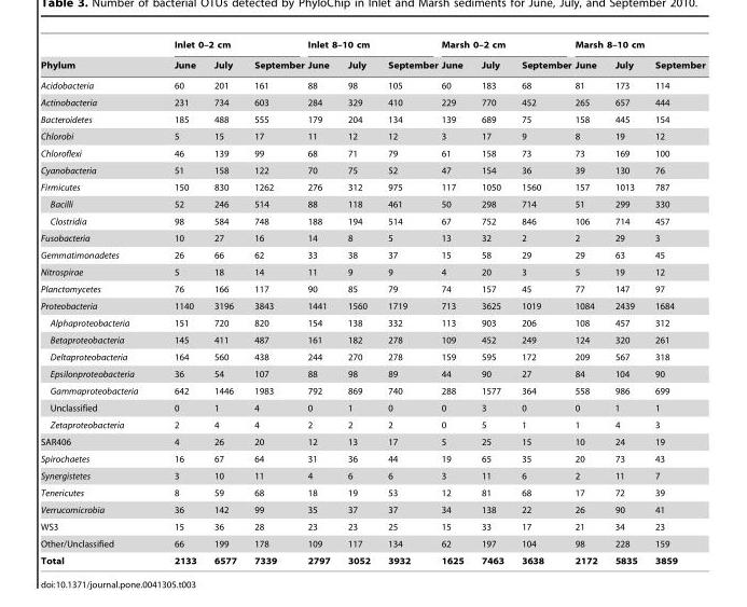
<table><thead><tr><td rowspan="2">Phylum</td><td colspan="3">Inlet 0–2 cm</td><td colspan="3">Inlet 8–10 cm</td><td colspan="3">Marsh 0–2 cm</td><td colspan="3">Marsh 8–10 cm</td></tr><tr><td>June</td><td>July</td><td>September</td><td>June</td><td>July</td><td>September</td><td>June</td><td>July</td><td>September</td><td>June</td><td>July</td><td>September</td></tr></thead><tbody><tr><td>Acidobacteria</td><td>60</td><td>201</td><td>161</td><td>88</td><td>98</td><td>105</td><td>60</td><td>183</td><td>68</td><td>81</td><td>173</td><td>114</td></tr><tr><td>Actinobacteria</td><td>231</td><td>734</td><td>603</td><td>284</td><td>329</td><td>410</td><td>229</td><td>770</td><td>452</td><td>265</td><td>657</td><td>444</td></tr><tr><td>Bacteroidetes</td><td>185</td><td>488</td><td>555</td><td>179</td><td>204</td><td>134</td><td>139</td><td>689</td><td>75</td><td>158</td><td>445</td><td>154</td></tr><tr><td>Chlorobi</td><td>5</td><td>15</td><td>17</td><td>11</td><td>12</td><td>12</td><td>3</td><td>17</td><td>9</td><td>8</td><td>19</td><td>12</td></tr><tr><td>Chloroflexi</td><td>46</td><td>139</td><td>99</td><td>68</td><td>71</td><td>79</td><td>61</td><td>158</td><td>73</td><td>73</td><td>169</td><td>100</td></tr><tr><td>Cyanobacteria</td><td>51</td><td>158</td><td>122</td><td>70</td><td>75</td><td>52</td><td>47</td><td>154</td><td>36</td><td>39</td><td>130</td><td>76</td></tr><tr><td>Firmicutes</td><td>150</td><td>830</td><td>1262</td><td>276</td><td>312</td><td>975</td><td>117</td><td>1050</td><td>1560</td><td>157</td><td>1013</td><td>787</td></tr><tr><td>Bacilli</td><td>52</td><td>246</td><td>514</td><td>88</td><td>118</td><td>461</td><td>50</td><td>298</td><td>714</td><td>51</td><td>299</td><td>330</td></tr><tr><td>Clostridia</td><td>98</td><td>584</td><td>748</td><td>188</td><td>194</td><td>514</td><td>67</td><td>752</td><td>846</td><td>106</td><td>714</td><td>457</td></tr><tr><td>Fusobacteria</td><td>10</td><td>27</td><td>16</td><td>14</td><td>8</td><td>5</td><td>13</td><td>32</td><td>2</td><td>2</td><td>29</td><td>3</td></tr><tr><td>Gemmatimonadetes</td><td>26</td><td>66</td><td>62</td><td>33</td><td>38</td><td>37</td><td>15</td><td>58</td><td>29</td><td>29</td><td>63</td><td>45</td></tr><tr><td>Nitrospirae</td><td>5</td><td>18</td><td>14</td><td>11</td><td>9</td><td>9</td><td>4</td><td>20</td><td>3</td><td>5</td><td>19</td><td>12</td></tr><tr><td>Planctomycetes</td><td>76</td><td>166</td><td>117</td><td>90</td><td>85</td><td>79</td><td>74</td><td>157</td><td>45</td><td>77</td><td>147</td><td>97</td></tr><tr><td>Proteobacteria</td><td>1140</td><td>3196</td><td>3843</td><td>1441</td><td>1560</td><td>1719</td><td>713</td><td>3625</td><td>1019</td><td>1084</td><td>2439</td><td>1684</td></tr><tr><td>Alphaproteobacteria</td><td>151</td><td>720</td><td>820</td><td>154</td><td>138</td><td>332</td><td>113</td><td>903</td><td>206</td><td>108</td><td>457</td><td>312</td></tr><tr><td>Betaproteobacteria</td><td>145</td><td>411</td><td>487</td><td>161</td><td>182</td><td>278</td><td>109</td><td>452</td><td>249</td><td>124</td><td>320</td><td>261</td></tr><tr><td>Deltaproteobacteria</td><td>164</td><td>560</td><td>438</td><td>244</td><td>270</td><td>278</td><td>159</td><td>595</td><td>172</td><td>209</td><td>567</td><td>318</td></tr><tr><td>Epsilonproteobacteria</td><td>36</td><td>54</td><td>107</td><td>88</td><td>98</td><td>89</td><td>44</td><td>90</td><td>27</td><td>84</td><td>104</td><td>90</td></tr><tr><td>Gammaproteobacteria</td><td>642</td><td>1446</td><td>1983</td><td>792</td><td>869</td><td>740</td><td>288</td><td>1577</td><td>364</td><td>558</td><td>986</td><td>699</td></tr><tr><td>Unclassified</td><td>0</td><td>1</td><td>4</td><td>0</td><td>1</td><td>0</td><td>0</td><td>3</td><td>0</td><td>0</td><td>1</td><td>1</td></tr><tr><td>Zetaproteobacteria</td><td>2</td><td>4</td><td>4</td><td>2</td><td>2</td><td>2</td><td>0</td><td>5</td><td>1</td><td>1</td><td>4</td><td>3</td></tr><tr><td>SAR406</td><td>4</td><td>26</td><td>20</td><td>12</td><td>13</td><td>17</td><td>5</td><td>25</td><td>15</td><td>10</td><td>24</td><td>19</td></tr><tr><td>Spirochaetes</td><td>16</td><td>67</td><td>64</td><td>31</td><td>36</td><td>44</td><td>19</td><td>65</td><td>35</td><td>20</td><td>73</td><td>43</td></tr><tr><td>Synergistetes</td><td>3</td><td>10</td><td>11</td><td>4</td><td>6</td><td>6</td><td>3</td><td>11</td><td>6</td><td>2</td><td>11</td><td>7</td></tr><tr><td>Tenericutes</td><td>8</td><td>59</td><td>68</td><td>18</td><td>19</td><td>53</td><td>12</td><td>81</td><td>68</td><td>17</td><td>72</td><td>39</td></tr><tr><td>Verrucomicrobia</td><td>36</td><td>142</td><td>99</td><td>35</td><td>37</td><td>37</td><td>34</td><td>138</td><td>22</td><td>26</td><td>90</td><td>41</td></tr><tr><td>WS3</td><td>15</td><td>36</td><td>28</td><td>23</td><td>23</td><td>25</td><td>15</td><td>33</td><td>17</td><td>21</td><td>34</td><td>23</td></tr><tr><td>Other/Unclassified</td><td>66</td><td>199</td><td>178</td><td>109</td><td>117</td><td>134</td><td>62</td><td>197</td><td>104</td><td>98</td><td>228</td><td>159</td></tr><tr><td>Total</td><td>2133</td><td>6577</td><td>7339</td><td>2797</td><td>3052</td><td>3932</td><td>1625</td><td>7463</td><td>3638</td><td>2172</td><td>5835</td><td>3859</td></tr></tbody></table>